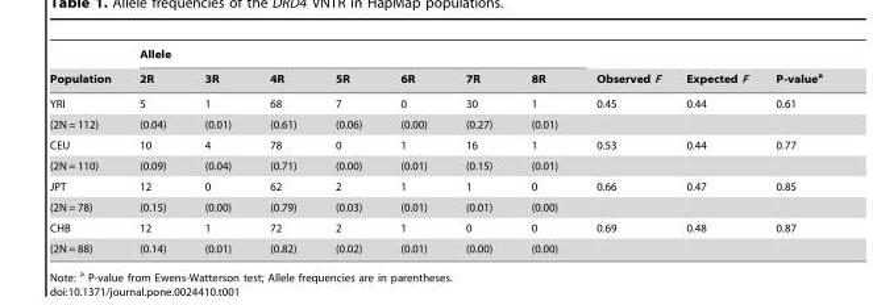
<table><thead><tr><td rowspan="2">Population</td><td colspan="7">Allele</td><td rowspan="2">Observed F</td><td rowspan="2">Expected F</td><td rowspan="2">P-value<sup>a</sup></td></tr><tr><td>2R</td><td>3R</td><td>4R</td><td>5R</td><td>6R</td><td>7R</td><td>8R</td></tr></thead><tbody><tr><td>YRI</td><td>5</td><td>1</td><td>68</td><td>7</td><td>0</td><td>30</td><td>1</td><td>0.45</td><td>0.44</td><td>0.61</td></tr><tr><td>(2N = 112)</td><td>(0.04)</td><td>(0.01)</td><td>(0.61)</td><td>(0.06)</td><td>(0.00)</td><td>(0.27)</td><td>(0.01)</td><td></td><td></td><td></td></tr><tr><td>CEU</td><td>10</td><td>4</td><td>78</td><td>0</td><td>1</td><td>16</td><td>1</td><td>0.53</td><td>0.44</td><td>0.77</td></tr><tr><td>(2N = 110)</td><td>(0.09)</td><td>(0.04)</td><td>(0.71)</td><td>(0.00)</td><td>(0.01)</td><td>(0.15)</td><td>(0.01)</td><td></td><td></td><td></td></tr><tr><td>JPT</td><td>12</td><td>0</td><td>62</td><td>2</td><td>1</td><td>1</td><td>0</td><td>0.66</td><td>0.47</td><td>0.85</td></tr><tr><td>(2N = 78)</td><td>(0.15)</td><td>(0.00)</td><td>(0.79)</td><td>(0.03)</td><td>(0.01)</td><td>(0.01)</td><td>(0.00)</td><td></td><td></td><td></td></tr><tr><td>CHB</td><td>12</td><td>1</td><td>72</td><td>2</td><td>1</td><td>0</td><td>0</td><td>0.69</td><td>0.48</td><td>0.87</td></tr><tr><td>(2N = 88)</td><td>(0.14)</td><td>(0.01)</td><td>(0.82)</td><td>(0.02)</td><td>(0.01)</td><td>(0.00)</td><td>(0.00)</td><td></td><td></td><td></td></tr></tbody></table>